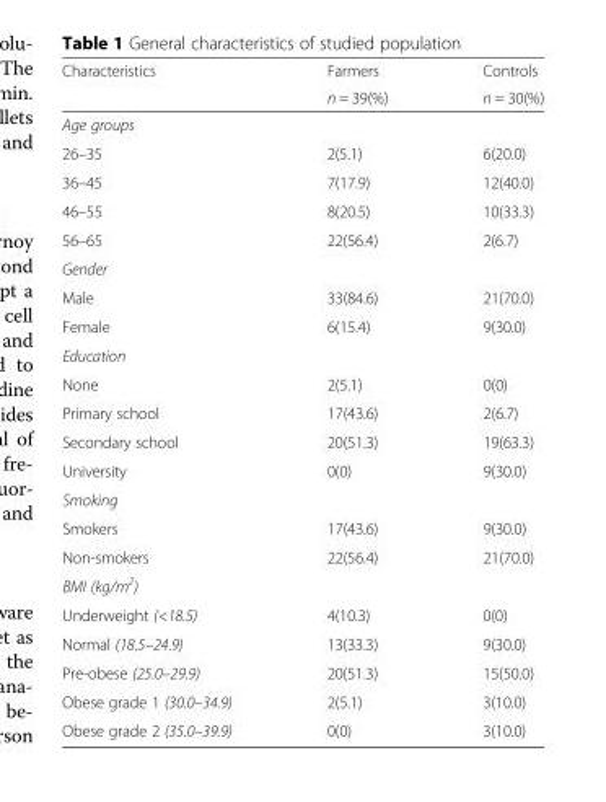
<table><thead><tr><td rowspan="2">Characteristics</td><td rowspan="2">Farmers n = 39(%)</td><td rowspan="2">Controls n = 30(%)</td></tr><tr></tr></thead><tbody><tr><td colspan="3">Age groups</td></tr><tr><td>26–35</td><td>2(5.1)</td><td>6(20.0)</td></tr><tr><td>36–45</td><td>7(17.9)</td><td>12(40.0)</td></tr><tr><td>46–55</td><td>8(20.5)</td><td>10(33.3)</td></tr><tr><td>56–65</td><td>22(56.4)</td><td>2(6.7)</td></tr><tr><td colspan="3">Gender</td></tr><tr><td>Male</td><td>33(84.6)</td><td>21(70.0)</td></tr><tr><td>Female</td><td>6(15.4)</td><td>9(30.0)</td></tr><tr><td colspan="3">Education</td></tr><tr><td>None</td><td>2(5.1)</td><td>0(0)</td></tr><tr><td>Primary school</td><td>17(43.6)</td><td>2(6.7)</td></tr><tr><td>Secondary school</td><td>20(51.3)</td><td>19(63.3)</td></tr><tr><td>University</td><td>0(0)</td><td>9(30.0)</td></tr><tr><td colspan="3">Smoking</td></tr><tr><td>Smokers</td><td>17(43.6)</td><td>9(30.0)</td></tr><tr><td>Non-smokers</td><td>22(56.4)</td><td>21(70.0)</td></tr><tr><td colspan="3">BMI (kg/m<sup>2</sup>)</td></tr><tr><td>Underweight (&lt;18.5)</td><td>4(10.3)</td><td>0(0)</td></tr><tr><td>Normal (18.5–24.9)</td><td>13(33.3)</td><td>9(30.0)</td></tr><tr><td>Pre-obese (25.0–29.9)</td><td>20(51.3)</td><td>15(50.0)</td></tr><tr><td>Obese grade 1 (30.0–34.9)</td><td>2(5.1)</td><td>3(10.0)</td></tr><tr><td>Obese grade 2 (35.0–39.9)</td><td>0(0)</td><td>3(10.0)</td></tr></tbody></table>